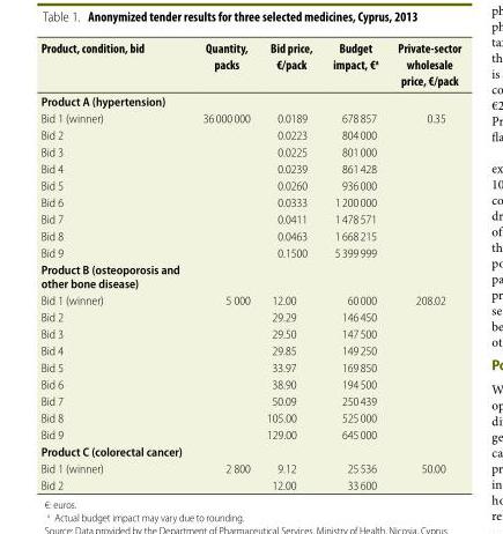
<table><thead><tr><td>Product, condition, bid</td><td>Quantity, packs</td><td>Bid price, €/pack</td><td>Budget impact, €<sup>a</sup></td><td>Private-sector wholesale price, €/pack</td></tr></thead><tbody><tr><td colspan="5">Product A (hypertension)</td></tr><tr><td>Bid 1 (winner)</td><td rowspan="9">36 000 000</td><td>0.0189</td><td>678 857</td><td rowspan="9">0.35</td></tr><tr><td>Bid 2</td><td>0.0223</td><td>804 000</td></tr><tr><td>Bid 3</td><td>0.0225</td><td>801 000</td></tr><tr><td>Bid 4</td><td>0.0239</td><td>861 428</td></tr><tr><td>Bid 5</td><td>0.0260</td><td>936 000</td></tr><tr><td>Bid 6</td><td>0.0333</td><td>1 200 000</td></tr><tr><td>Bid 7</td><td>0.0411</td><td>1 478 571</td></tr><tr><td>Bid 8</td><td>0.0463</td><td>1 668 215</td></tr><tr><td>Bid 9</td><td>0.1500</td><td>5 399 999</td></tr><tr><td colspan="5">Product B (osteoporosis and other bone disease)</td></tr><tr><td>Bid 1 (winner)</td><td rowspan="9">5 000</td><td>12.00</td><td>60 000</td><td rowspan="9">208.02</td></tr><tr><td>Bid 2</td><td>29.29</td><td>146 450</td></tr><tr><td>Bid 3</td><td>29.50</td><td>147 500</td></tr><tr><td>Bid 4</td><td>29.85</td><td>149 250</td></tr><tr><td>Bid 5</td><td>33.97</td><td>169 850</td></tr><tr><td>Bid 6</td><td>38.90</td><td>194 500</td></tr><tr><td>Bid 7</td><td>50.09</td><td>250 439</td></tr><tr><td>Bid 8</td><td>105.00</td><td>525 000</td></tr><tr><td>Bid 9</td><td>129.00</td><td>645 000</td></tr><tr><td colspan="5">Product C (colorectal cancer)</td></tr><tr><td>Bid 1 (winner)</td><td rowspan="2">2 800</td><td>9.12</td><td>25 536</td><td rowspan="2">50.00</td></tr><tr><td>Bid 2</td><td>12.00</td><td>33 600</td></tr></tbody></table>